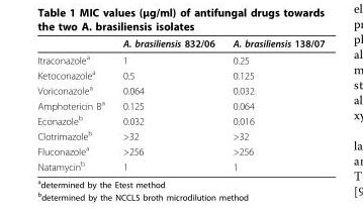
<table><thead><tr><td></td><td>A. brasiliensis 832/06</td><td>A. brasiliensis 138/07</td></tr></thead><tbody><tr><td>Itraconazole<sup>a</sup></td><td>1</td><td>0.25</td></tr><tr><td>Ketoconazole<sup>a</sup></td><td>0.5</td><td>0.125</td></tr><tr><td>Voriconazole<sup>a</sup></td><td>0.064</td><td>0.032</td></tr><tr><td>Amphotericin B<sup>a</sup></td><td>0.125</td><td>0.064</td></tr><tr><td>Econazole<sup>b</sup></td><td>0.032</td><td>0.016</td></tr><tr><td>Clotrimazole<sup>b</sup></td><td>&gt;32</td><td>&gt;32</td></tr><tr><td>Fluconazole<sup>a</sup></td><td>&gt;256</td><td>&gt;256</td></tr><tr><td>Natamycin<sup>b</sup></td><td>1</td><td>1</td></tr></tbody></table>